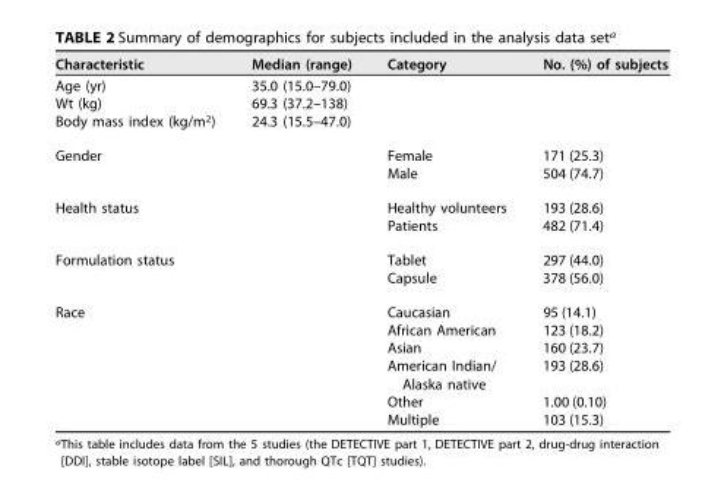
<table><thead><tr><td>Characteristic</td><td>Median (range)</td><td>Category</td><td>No. (%) of subjects</td></tr></thead><tbody><tr><td>Age (yr)</td><td>35.0 (15.0–79.0)</td><td></td><td></td></tr><tr><td>Wt (kg)</td><td>69.3 (37.2–138)</td><td></td><td></td></tr><tr><td>Body mass index (kg/m<sup>2</sup>)</td><td>24.3 (15.5–47.0)</td><td></td><td></td></tr><tr><td rowspan="2">Gender</td><td></td><td>Female</td><td>171 (25.3)</td></tr><tr><td></td><td>Male</td><td>504 (74.7)</td></tr><tr><td rowspan="2">Health status</td><td></td><td>Healthy volunteers</td><td>193 (28.6)</td></tr><tr><td></td><td>Patients</td><td>482 (71.4)</td></tr><tr><td rowspan="2">Formulation status</td><td></td><td>Tablet</td><td>297 (44.0)</td></tr><tr><td></td><td>Capsule</td><td>378 (56.0)</td></tr><tr><td rowspan="6">Race</td><td></td><td>Caucasian</td><td>95 (14.1)</td></tr><tr><td></td><td>African American</td><td>123 (18.2)</td></tr><tr><td></td><td>Asian</td><td>160 (23.7)</td></tr><tr><td></td><td>American Indian/ Alaska native</td><td>193 (28.6)</td></tr><tr><td></td><td>Other</td><td>1.00 (0.10)</td></tr><tr><td></td><td>Multiple</td><td>103 (15.3)</td></tr></tbody></table>